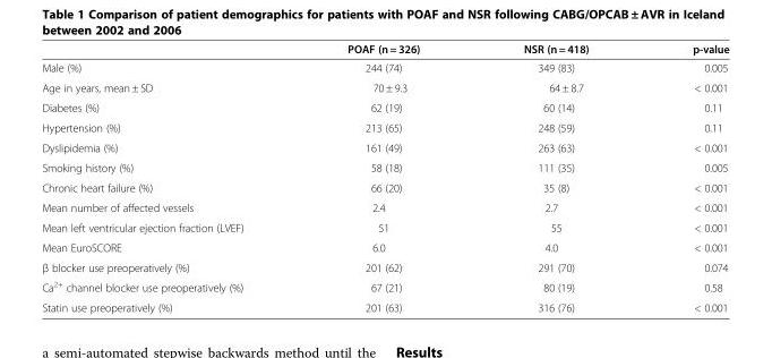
<table><thead><tr><td></td><td>POAF (n = 326)</td><td>NSR (n = 418)</td><td>p-value</td></tr></thead><tbody><tr><td>Male (%)</td><td>244 (74)</td><td>349 (83)</td><td>0.005</td></tr><tr><td>Age in years, mean ± SD</td><td>70 ± 9.3</td><td>64 ± 8.7</td><td>&lt; 0.001</td></tr><tr><td>Diabetes (%)</td><td>62 (19)</td><td>60 (14)</td><td>0.11</td></tr><tr><td>Hypertension (%)</td><td>213 (65)</td><td>248 (59)</td><td>0.11</td></tr><tr><td>Dyslipidemia (%)</td><td>161 (49)</td><td>263 (63)</td><td>&lt; 0.001</td></tr><tr><td>Smoking history (%)</td><td>58 (18)</td><td>111 (35)</td><td>0.005</td></tr><tr><td>Chronic heart failure (%)</td><td>66 (20)</td><td>35 (8)</td><td>&lt; 0.001</td></tr><tr><td>Mean number of affected vessels</td><td>2.4</td><td>2.7</td><td>&lt; 0.001</td></tr><tr><td>Mean left ventricular ejection fraction (LVEF)</td><td>51</td><td>55</td><td>&lt; 0.001</td></tr><tr><td>Mean EuroSCORE</td><td>6.0</td><td>4.0</td><td>&lt; 0.001</td></tr><tr><td>β blocker use preoperatively (%)</td><td>201 (62)</td><td>291 (70)</td><td>0.074</td></tr><tr><td>Ca<sup>2+</sup> channel blocker use preoperatively (%)</td><td>67 (21)</td><td>80 (19)</td><td>0.58</td></tr><tr><td>Statin use preoperatively (%)</td><td>201 (63)</td><td>316 (76)</td><td>&lt; 0.001</td></tr></tbody></table>